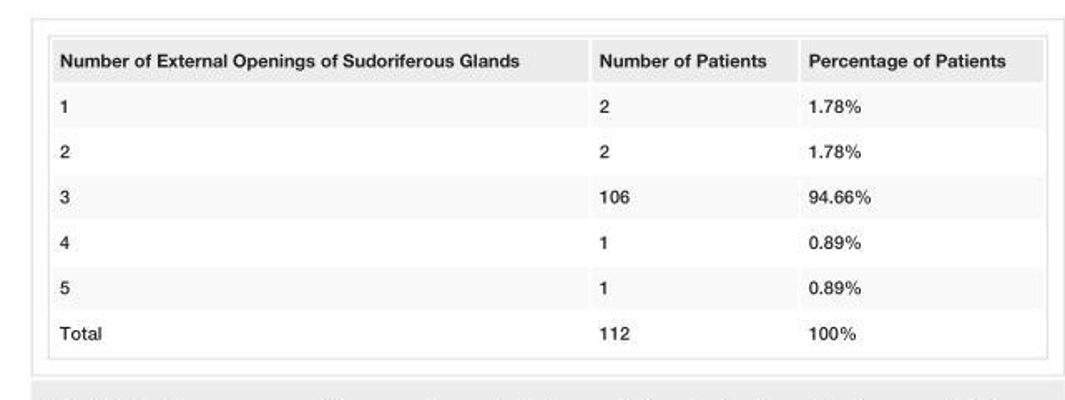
<table><tbody><tr><td>Number of External Openings of Sudoriferous Glands</td><td>Number of Patients</td><td>Percentage of Patients</td></tr><tr><td>1</td><td>2</td><td>1.78%</td></tr><tr><td>2</td><td>2</td><td>1.78%</td></tr><tr><td>3</td><td>106</td><td>94.66%</td></tr><tr><td>4</td><td>1</td><td>0.89%</td></tr><tr><td>5</td><td>1</td><td>0.89%</td></tr><tr><td>Total</td><td>112</td><td>100%</td></tr></tbody></table>